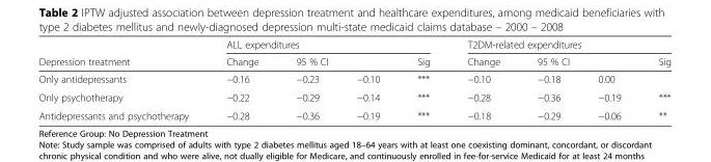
<table><thead><tr><td rowspan="3">Depression treatment Only antidepressants</td><td colspan="4">ALL expenditures</td><td colspan="4">T2DM-related expenditures</td></tr><tr><td rowspan="2">Change −0.16</td><td colspan="2">95 % CI</td><td rowspan="2">Sig ***</td><td rowspan="2">Change −0.10</td><td colspan="2">95 % CI</td><td rowspan="2">Sig</td></tr><tr><td>−0.23</td><td>−0.10</td><td>−0.18</td><td>0.00</td></tr></thead><tbody><tr><td>Only psychotherapy</td><td>−0.22</td><td>−0.29</td><td>−0.14</td><td>***</td><td>−0.28</td><td>−0.36</td><td>−0.19</td><td>***</td></tr><tr><td>Antidepressants and psychotherapy</td><td>−0.28</td><td>−0.36</td><td>−0.19</td><td>***</td><td>−0.18</td><td>−0.29</td><td>−0.06</td><td>**</td></tr></tbody></table>